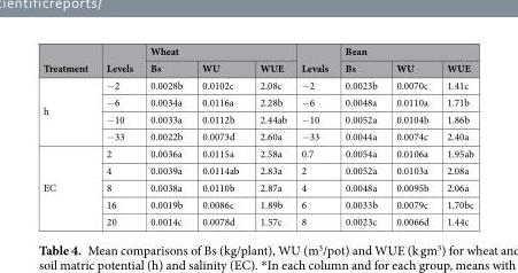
<table><thead><tr><td rowspan="2">Treatment</td><td rowspan="2">Levels</td><td colspan="3">Wheat</td><td rowspan="2">Levals</td><td colspan="3">Bean</td></tr><tr><td>Bs</td><td>WU</td><td>WUE</td><td>Bs</td><td>WU</td><td>WUE</td></tr></thead><tbody><tr><td rowspan="4">h</td><td>−2</td><td>0.0028b</td><td>0.0102c</td><td>2.08c</td><td>−2</td><td>0.0023b</td><td>0.0070c</td><td>1.41c</td></tr><tr><td>−6</td><td>0.0034a</td><td>0.0116a</td><td>2.28b</td><td>−6</td><td>0.0048a</td><td>0.0110a</td><td>1.71b</td></tr><tr><td>−10</td><td>0.0033a</td><td>0.0112b</td><td>2.44ab</td><td>−10</td><td>0.0052a</td><td>0.0104b</td><td>1.86b</td></tr><tr><td>−33</td><td>0.0022b</td><td>0.0073d</td><td>2.60a</td><td>−33</td><td>0.0044a</td><td>0.0074c</td><td>2.40a</td></tr><tr><td rowspan="5">EC</td><td>2</td><td>0.0036a</td><td>0.0115a</td><td>2.58a</td><td>0.7</td><td>0.0054a</td><td>0.0106a</td><td>1.95ab</td></tr><tr><td>4</td><td>0.0039a</td><td>0.0114ab</td><td>2.83a</td><td>2</td><td>0.0052a</td><td>0.0103a</td><td>2.08a</td></tr><tr><td>8</td><td>0.0038a</td><td>0.0110b</td><td>2.87a</td><td>4</td><td>0.0048a</td><td>0.0095b</td><td>2.06a</td></tr><tr><td>16</td><td>0.0019b</td><td>0.0086c</td><td>1.89b</td><td>6</td><td>0.0033b</td><td>0.0079c</td><td>1.70bc</td></tr><tr><td>20</td><td>0.0014c</td><td>0.0078d</td><td>1.57c</td><td>8</td><td>0.0023c</td><td>0.0066d</td><td>1.44c</td></tr></tbody></table>